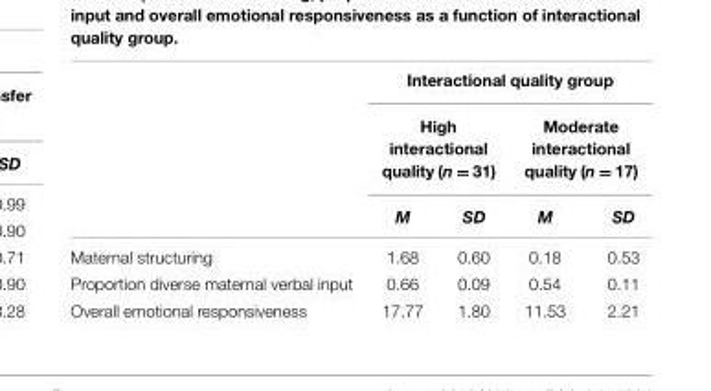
<table><thead><tr><td rowspan="3"></td><td colspan="4">Interactional quality group</td></tr><tr><td colspan="2">High interactional quality (n = 31)</td><td colspan="2">Moderate interactional quality (n = 17)</td></tr><tr><td>M</td><td>SD</td><td>M</td><td>SD</td></tr></thead><tbody><tr><td>Maternal structuring</td><td>1.68</td><td>0.60</td><td>0.18</td><td>0.53</td></tr><tr><td>Proportion diverse maternal verbal input</td><td>0.66</td><td>0.09</td><td>0.54</td><td>0.11</td></tr><tr><td>Overall emotional responsiveness</td><td>17.77</td><td>1.80</td><td>11.53</td><td>2.21</td></tr></tbody></table>